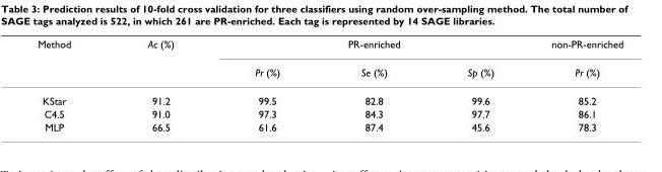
<table><thead><tr><td rowspan="2">Method</td><td rowspan="2">Ac (%)</td><td colspan="3">PR-enriched</td><td rowspan="2">non-PR-enriched Pr (%)</td></tr><tr><td>Pr (%)</td><td>Se (%)</td><td>Sp (%)</td></tr></thead><tbody><tr><td>KStar</td><td>91.2</td><td>99.5</td><td>82.8</td><td>99.6</td><td>85.2</td></tr><tr><td>C4.5</td><td>91.0</td><td>97.3</td><td>84.3</td><td>97.7</td><td>86.1</td></tr><tr><td>MLP</td><td>66.5</td><td>61.6</td><td>87.4</td><td>45.6</td><td>78.3</td></tr></tbody></table>